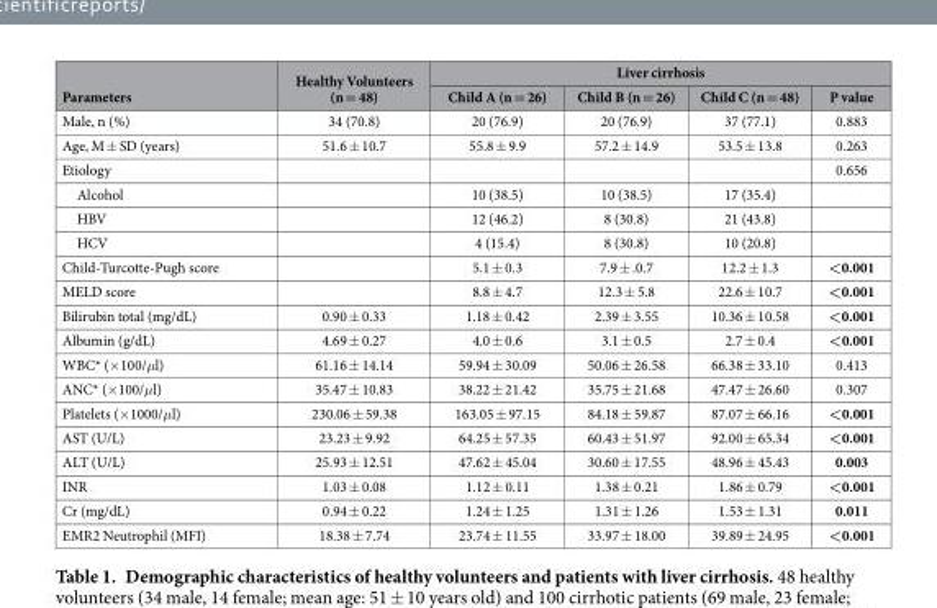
<table><thead><tr><td rowspan="2">Parameters</td><td rowspan="2">Healthy Volunteers (n = 48)</td><td colspan="4">Liver cirrhosis</td></tr><tr><td>Child A (n = 26)</td><td>Child B (n = 26)</td><td>Child C (n = 48)</td><td>P value</td></tr></thead><tbody><tr><td>Male, n (%)</td><td>34 (70.8)</td><td>20 (76.9)</td><td>20 (76.9)</td><td>37 (77.1)</td><td>0.883</td></tr><tr><td>Age, M ± SD (years)</td><td>51.6 ± 10.7</td><td>55.8 ± 9.9</td><td>57.2 ± 14.9</td><td>53.5 ± 13.8</td><td>0.263</td></tr><tr><td>Etiology</td><td></td><td></td><td></td><td></td><td>0.656</td></tr><tr><td>Alcohol</td><td></td><td>10 (38.5)</td><td>10 (38.5)</td><td>17 (35.4)</td><td></td></tr><tr><td>HBV</td><td></td><td>12 (46.2)</td><td>8 (30.8)</td><td>21 (43.8)</td><td></td></tr><tr><td>HCV</td><td></td><td>4 (15.4)</td><td>8 (30.8)</td><td>10 (20.8)</td><td></td></tr><tr><td>Child-Turcotte-Pugh score</td><td></td><td>5.1 ± 0.3</td><td>7.9 ± .0.7</td><td>12.2 ± 1.3</td><td>&lt;0.001</td></tr><tr><td>MELD score</td><td></td><td>8.8 ± 4.7</td><td>12.3 ± 5.8</td><td>22.6 ± 10.7</td><td>&lt;0.001</td></tr><tr><td>Bilirubin total (mg/dL)</td><td>0.90 ± 0.33</td><td>1.18 ± 0.42</td><td>2.39 ± 3.55</td><td>10.36 ± 10.58</td><td>&lt;0.001</td></tr><tr><td>Albumin (g/dL)</td><td>4.69 ± 0.27</td><td>4.0 ± 0.6</td><td>3.1 ± 0.5</td><td>2.7 ± 0.4</td><td>&lt;0.001</td></tr><tr><td>WBC* (× 100/μl)</td><td>61.16 ± 14.14</td><td>59.94 ± 30.09</td><td>50.06 ± 26.58</td><td>66.38 ± 33.10</td><td>0.413</td></tr><tr><td>ANC* (× 100/μl)</td><td>35.47 ± 10.83</td><td>38.22 ± 21.42</td><td>35.75 ± 21.68</td><td>47.47 ± 26.60</td><td>0.307</td></tr><tr><td>Platelets (× 1000/μl)</td><td>230.06 ± 59.38</td><td>163.05 ± 97.15</td><td>84.18 ± 59.87</td><td>87.07 ± 66.16</td><td>&lt;0.001</td></tr><tr><td>AST (U/L)</td><td>23.23 ± 9.92</td><td>64.25 ± 57.35</td><td>60.43 ± 51.97</td><td>92.00 ± 65.34</td><td>&lt;0.001</td></tr><tr><td>ALT (U/L)</td><td>25.93 ± 12.51</td><td>47.62 ± 45.04</td><td>30.60 ± 17.55</td><td>48.96 ± 45.43</td><td>0.003</td></tr><tr><td>INR</td><td>1.03 ± 0.08</td><td>1.12 ± 0.11</td><td>1.38 ± 0.21</td><td>1.86 ± 0.79</td><td>&lt;0.001</td></tr><tr><td>Cr (mg/dL)</td><td>0.94 ± 0.22</td><td>1.24 ± 1.25</td><td>1.31 ± 1.26</td><td>1.53 ± 1.31</td><td>0.011</td></tr><tr><td>EMR2 Neutrophil (MFI)</td><td>18.38 ± 7.74</td><td>23.74 ± 11.55</td><td>33.97 ± 18.00</td><td>39.89 ± 24.95</td><td>&lt;0.001</td></tr></tbody></table>